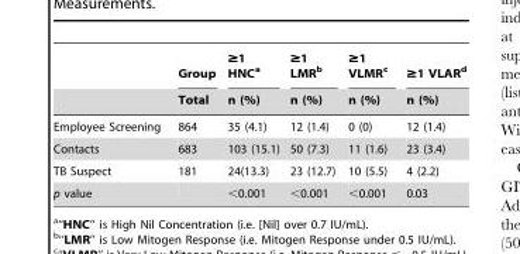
<table><thead><tr><td rowspan="2"></td><td rowspan="2">Group Total</td><td rowspan="2">≥1 HNC<sup>a</sup> n (%)</td><td rowspan="2">≥1 LMR<sup>b</sup> n (%)</td><td rowspan="2">≥1 VLMR<sup>c</sup> n (%)</td><td rowspan="2">≥1 VLAR<sup>d</sup> n (%)</td></tr><tr></tr></thead><tbody><tr><td>Employee Screening</td><td>864</td><td>35 (4.1)</td><td>12 (1.4)</td><td>0 (0)</td><td>12 (1.4)</td></tr><tr><td>Contacts</td><td>683</td><td>103 (15.1)</td><td>50 (7.3)</td><td>11 (1.6)</td><td>23 (3.4)</td></tr><tr><td>TB Suspect</td><td>181</td><td>24(13.3)</td><td>23 (12.7)</td><td>10 (5.5)</td><td>4 (2.2)</td></tr><tr><td>p value</td><td></td><td>&lt;0.001</td><td>&lt;0.001</td><td>&lt;0.001</td><td>0.03</td></tr></tbody></table>